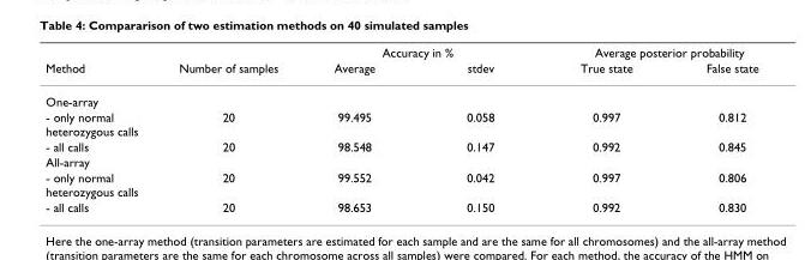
<table><thead><tr><td rowspan="2">Method</td><td rowspan="2">Number of samples</td><td colspan="2">Accuracy in %</td><td colspan="2">Average posterior probability</td></tr><tr><td>Average</td><td>stdev</td><td>True state</td><td>False state</td></tr></thead><tbody><tr><td colspan="6">One-array</td></tr><tr><td>- only normal heterozygous calls</td><td>20</td><td>99.495</td><td>0.058</td><td>0.997</td><td>0.812</td></tr><tr><td>- all calls</td><td>20</td><td>98.548</td><td>0.147</td><td>0.992</td><td>0.845</td></tr><tr><td colspan="6">All-array</td></tr><tr><td>- only normal heterozygous calls</td><td>20</td><td>99.552</td><td>0.042</td><td>0.997</td><td>0.806</td></tr><tr><td>- all calls</td><td>20</td><td>98.653</td><td>0.150</td><td>0.992</td><td>0.830</td></tr></tbody></table>